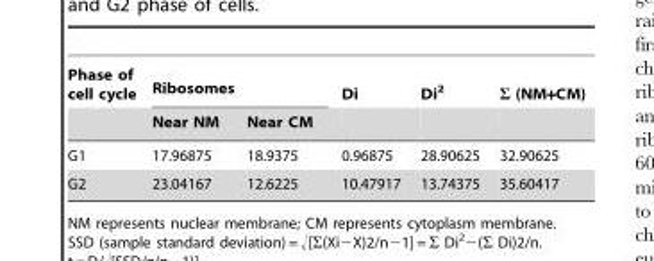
<table><thead><tr><td rowspan="2">Phase of cell cycle</td><td colspan="2">Ribosomes</td><td rowspan="2">Di</td><td rowspan="2">Di<sup>2</sup></td><td rowspan="2">Σ (NM+CM)</td></tr><tr><td>Near NM</td><td>Near CM</td></tr></thead><tbody><tr><td>G1</td><td>17.96875</td><td>18.9375</td><td>0.96875</td><td>28.90625</td><td>32.90625</td></tr><tr><td>G2</td><td>23.04167</td><td>12.6225</td><td>10.47917</td><td>13.74375</td><td>35.60417</td></tr></tbody></table>